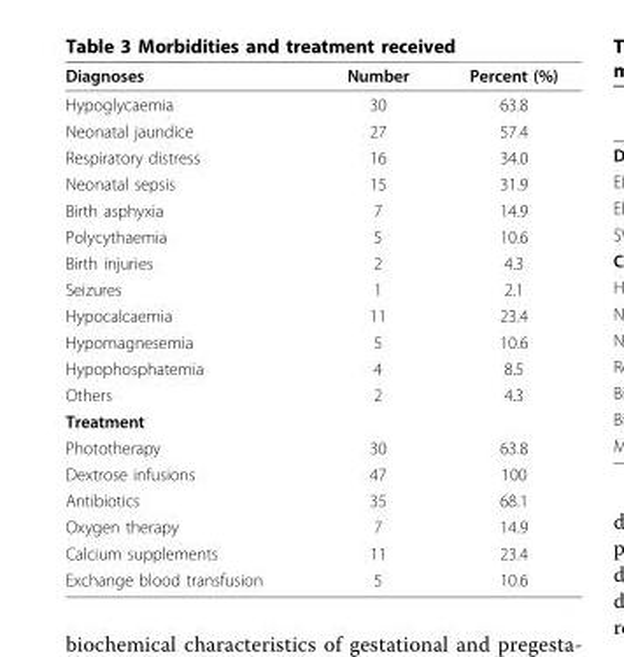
<table><thead><tr><td>Diagnoses</td><td>Number</td><td>Percent (%)</td></tr></thead><tbody><tr><td>Hypoglycaemia</td><td>30</td><td>63.8</td></tr><tr><td>Neonatal jaundice</td><td>27</td><td>57.4</td></tr><tr><td>Respiratory distress</td><td>16</td><td>34.0</td></tr><tr><td>Neonatal sepsis</td><td>15</td><td>31.9</td></tr><tr><td>Birth asphyxia</td><td>7</td><td>14.9</td></tr><tr><td>Polycythaemia</td><td>5</td><td>10.6</td></tr><tr><td>Birth injuries</td><td>2</td><td>4.3</td></tr><tr><td>Seizures</td><td>1</td><td>2.1</td></tr><tr><td>Hypocalcaemia</td><td>11</td><td>23.4</td></tr><tr><td>Hypomagnesemia</td><td>5</td><td>10.6</td></tr><tr><td>Hypophosphatemia</td><td>4</td><td>8.5</td></tr><tr><td>Others</td><td>2</td><td>4.3</td></tr><tr><td colspan="3">Treatment</td></tr><tr><td>Phototherapy</td><td>30</td><td>63.8</td></tr><tr><td>Dextrose infusions</td><td>47</td><td>100</td></tr><tr><td>Antibiotics</td><td>35</td><td>68.1</td></tr><tr><td>Oxygen therapy</td><td>7</td><td>14.9</td></tr><tr><td>Calcium supplements</td><td>11</td><td>23.4</td></tr><tr><td>Exchange blood transfusion</td><td>5</td><td>10.6</td></tr></tbody></table>